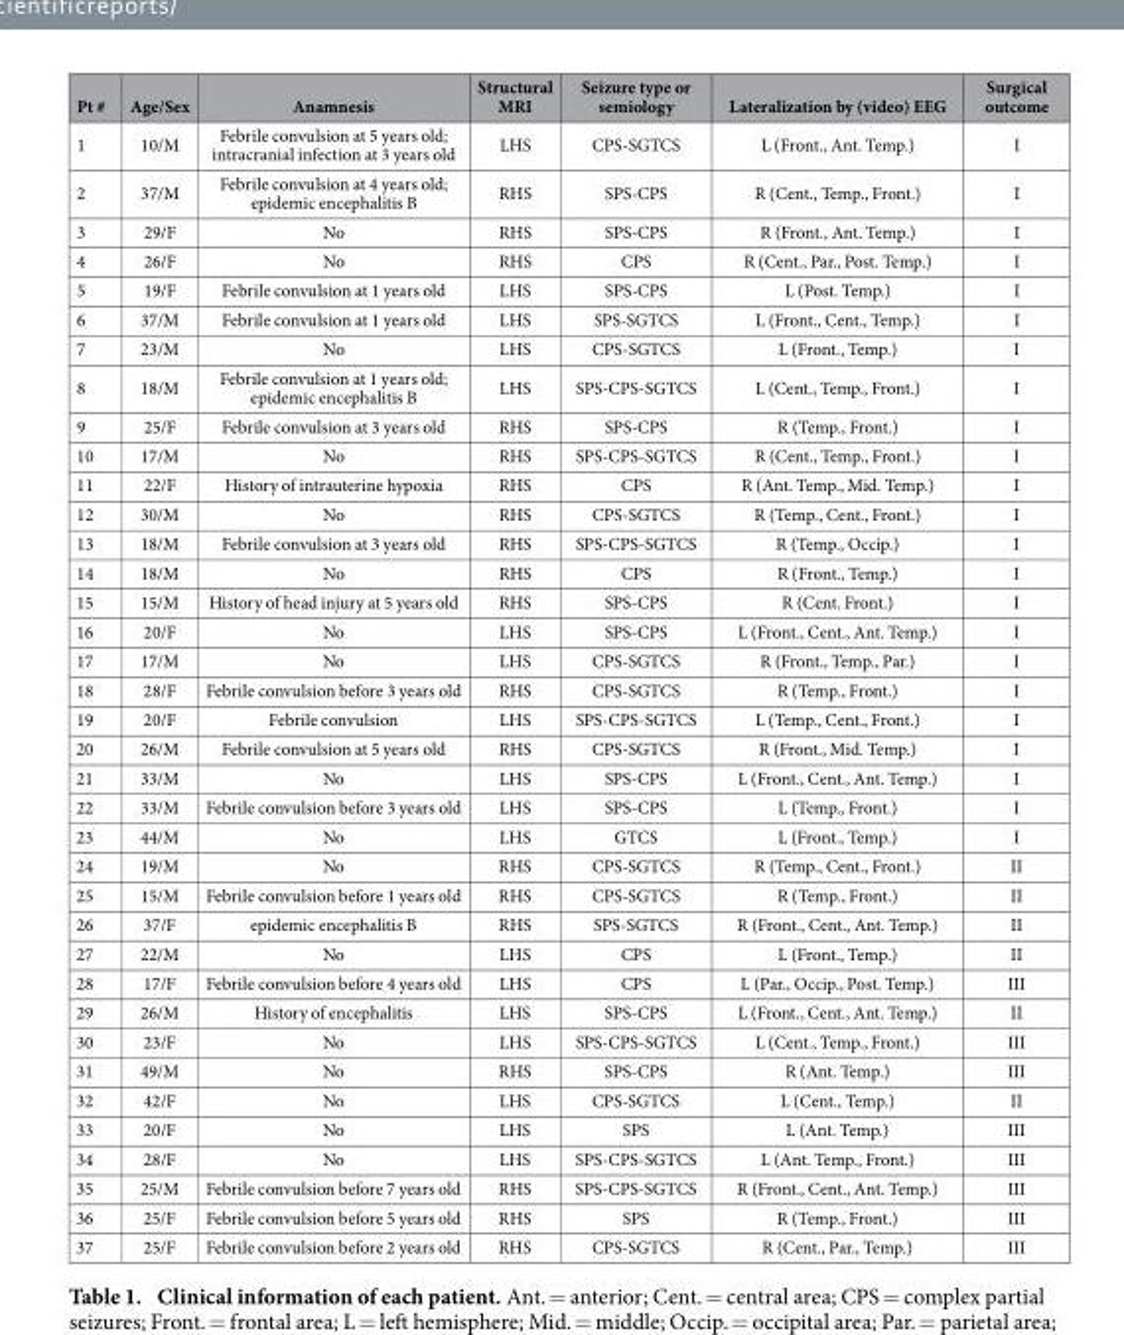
<table><thead><tr><td>Pt #</td><td>Age/Sex</td><td>Anamnesis</td><td>Structural MRI</td><td>Seizure type or semiology</td><td>Lateralization by (video) EEG</td><td>Surgical outcome</td></tr></thead><tbody><tr><td>1</td><td>10/M</td><td>Febrile convulsion at 5 years old; intracranial infection at 3 years old</td><td>LHS</td><td>CPS-SGTCS</td><td>L (Front., Ant. Temp.)</td><td>I</td></tr><tr><td>2</td><td>37/M</td><td>Febrile convulsion at 4 years old; epidemic encephalitis B</td><td>RHS</td><td>SPS-CPS</td><td>R (Cent., Temp., Front.)</td><td>I</td></tr><tr><td>3</td><td>29/F</td><td>No</td><td>RHS</td><td>SPS-CPS</td><td>R (Front., Ant. Temp.)</td><td>I</td></tr><tr><td>4</td><td>26/F</td><td>No</td><td>RHS</td><td>CPS</td><td>R (Cent., Par., Post. Temp.)</td><td>I</td></tr><tr><td>5</td><td>19/F</td><td>Febrile convulsion at 1 years old</td><td>LHS</td><td>SPS-CPS</td><td>L (Post. Temp.)</td><td>I</td></tr><tr><td>6</td><td>37/M</td><td>Febrile convulsion at 1 years old</td><td>LHS</td><td>SPS-SGTCS</td><td>L (Front., Cent., Temp.)</td><td>I</td></tr><tr><td>7</td><td>23/M</td><td>No</td><td>LHS</td><td>CPS-SGTCS</td><td>L (Front., Temp.)</td><td>I</td></tr><tr><td>8</td><td>18/M</td><td>Febrile convulsion at 1 years old; epidemic encephalitis B</td><td>LHS</td><td>SPS-CPS-SGTCS</td><td>L (Cent., Temp., Front.)</td><td>I</td></tr><tr><td>9</td><td>25/F</td><td>Febrile convulsion at 3 years old</td><td>RHS</td><td>SPS-CPS</td><td>R (Temp., Front.)</td><td>I</td></tr><tr><td>10</td><td>17/M</td><td>No</td><td>RHS</td><td>SPS-CPS-SGTCS</td><td>R (Cent., Temp., Front.)</td><td>I</td></tr><tr><td>11</td><td>22/F</td><td>History of intrauterine hypoxia</td><td>RHS</td><td>CPS</td><td>R (Ant. Temp., Mid. Temp.)</td><td>I</td></tr><tr><td>12</td><td>30/M</td><td>No</td><td>RHS</td><td>CPS-SGTCS</td><td>R (Temp., Cent., Front.)</td><td>I</td></tr><tr><td>13</td><td>18/M</td><td>Febrile convulsion at 3 years old</td><td>RHS</td><td>SPS-CPS-SGTCS</td><td>R (Temp., Occip.)</td><td>I</td></tr><tr><td>14</td><td>18/M</td><td>No</td><td>RHS</td><td>CPS</td><td>R (Front., Temp.)</td><td>I</td></tr><tr><td>15</td><td>15/M</td><td>History of head injury at 5 years old</td><td>RHS</td><td>SPS-CPS</td><td>R (Cent. Front.)</td><td>I</td></tr><tr><td>16</td><td>20/F</td><td>No</td><td>LHS</td><td>SPS-CPS</td><td>L (Front., Cent., Ant. Temp.)</td><td>I</td></tr><tr><td>17</td><td>17/M</td><td>No</td><td>LHS</td><td>CPS-SGTCS</td><td>R (Front., Temp., Par.)</td><td>I</td></tr><tr><td>18</td><td>28/F</td><td>Febrile convulsion before 3 years old</td><td>RHS</td><td>CPS-SGTCS</td><td>R (Temp., Front.)</td><td>I</td></tr><tr><td>19</td><td>20/F</td><td>Febrile convulsion</td><td>LHS</td><td>SPS-CPS-SGTCS</td><td>L (Temp., Cent., Front.)</td><td>I</td></tr><tr><td>20</td><td>26/M</td><td>Febrile convulsion at 5 years old</td><td>RHS</td><td>CPS-SGTCS</td><td>R (Front., Mid. Temp.)</td><td>I</td></tr><tr><td>21</td><td>33/M</td><td>No</td><td>LHS</td><td>SPS-CPS</td><td>L (Front., Cent., Ant. Temp.)</td><td>I</td></tr><tr><td>22</td><td>33/M</td><td>Febrile convulsion before 3 years old</td><td>LHS</td><td>SPS-CPS</td><td>L (Temp., Front.)</td><td>I</td></tr><tr><td>23</td><td>44/M</td><td>No</td><td>LHS</td><td>GTCS</td><td>L (Front., Temp.)</td><td>I</td></tr><tr><td>24</td><td>19/M</td><td>No</td><td>RHS</td><td>CPS-SGTCS</td><td>R (Temp., Cent., Front.)</td><td>II</td></tr><tr><td>25</td><td>15/M</td><td>Febrile convulsion before 1 years old</td><td>RHS</td><td>CPS-SGTCS</td><td>R (Temp., Front.)</td><td>II</td></tr><tr><td>26</td><td>37/F</td><td>epidemic encephalitis B</td><td>RHS</td><td>SPS-SGTCS</td><td>R (Front., Cent., Ant. Temp.)</td><td>II</td></tr><tr><td>27</td><td>22/M</td><td>No</td><td>LHS</td><td>CPS</td><td>L (Front., Temp.)</td><td>II</td></tr><tr><td>28</td><td>17/F</td><td>Febrile convulsion before 4 years old</td><td>LHS</td><td>CPS</td><td>L (Par., Occip., Post. Temp.)</td><td>III</td></tr><tr><td>29</td><td>26/M</td><td>History of encephalitis</td><td>LHS</td><td>SPS-CPS</td><td>L (Front., Cent., Ant. Temp.)</td><td>II</td></tr><tr><td>30</td><td>23/F</td><td>No</td><td>LHS</td><td>SPS-CPS-SGTCS</td><td>L (Cent., Temp., Front.)</td><td>III</td></tr><tr><td>31</td><td>49/M</td><td>No</td><td>RHS</td><td>SPS-CPS</td><td>R (Ant. Temp.)</td><td>III</td></tr><tr><td>32</td><td>42/F</td><td>No</td><td>LHS</td><td>CPS-SGTCS</td><td>L (Cent., Temp.)</td><td>II</td></tr><tr><td>33</td><td>20/F</td><td>No</td><td>LHS</td><td>SPS</td><td>L (Ant. Temp.)</td><td>III</td></tr><tr><td>34</td><td>28/F</td><td>No</td><td>LHS</td><td>SPS-CPS-SGTCS</td><td>L (Ant. Temp., Front.)</td><td>III</td></tr><tr><td>35</td><td>25/M</td><td>Febrile convulsion before 7 years old</td><td>RHS</td><td>SPS-CPS-SGTCS</td><td>R (Front., Cent., Ant. Temp.)</td><td>III</td></tr><tr><td>36</td><td>25/F</td><td>Febrile convulsion before 5 years old</td><td>RHS</td><td>SPS</td><td>R (Temp., Front.)</td><td>III</td></tr><tr><td>37</td><td>25/F</td><td>Febrile convulsion before 2 years old</td><td>RHS</td><td>CPS-SGTCS</td><td>R (Cent., Par., Temp.)</td><td>III</td></tr></tbody></table>